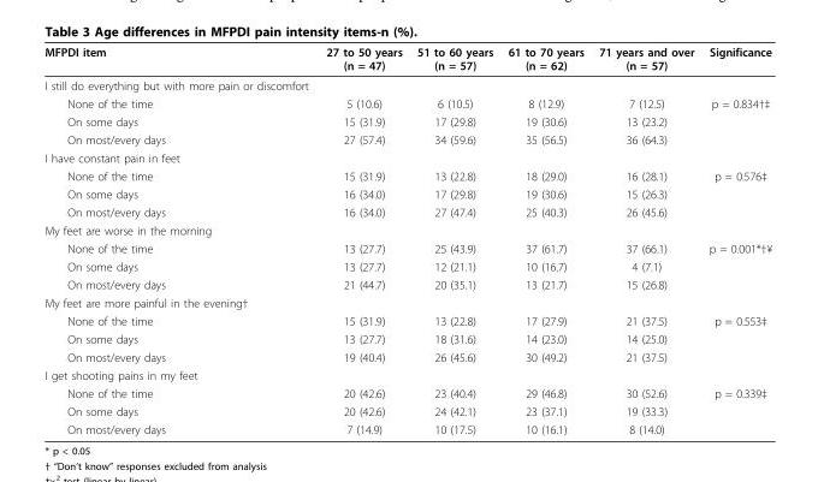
<table><thead><tr><td>MFPDI item</td><td>27 to 50 years (n = 47)</td><td>51 to 60 years (n = 57)</td><td>61 to 70 years (n = 62)</td><td>71 years and over (n = 57)</td><td>Significance</td></tr></thead><tbody><tr><td colspan="6">I still do everything but with more pain or discomfort</td></tr><tr><td>None of the time</td><td>5 (10.6)</td><td>6 (10.5)</td><td>8 (12.9)</td><td>7 (12.5)</td><td>p = 0.834†‡</td></tr><tr><td>On some days</td><td>15 (31.9)</td><td>17 (29.8)</td><td>19 (30.6)</td><td>13 (23.2)</td><td></td></tr><tr><td>On most/every days</td><td>27 (57.4)</td><td>34 (59.6)</td><td>35 (56.5)</td><td>36 (64.3)</td><td></td></tr><tr><td colspan="6">I have constant pain in feet</td></tr><tr><td>None of the time</td><td>15 (31.9)</td><td>13 (22.8)</td><td>18 (29.0)</td><td>16 (28.1)</td><td>p = 0.576‡</td></tr><tr><td>On some days</td><td>16 (34.0)</td><td>17 (29.8)</td><td>19 (30.6)</td><td>15 (26.3)</td><td></td></tr><tr><td>On most/every days</td><td>16 (34.0)</td><td>27 (47.4)</td><td>25 (40.3)</td><td>26 (45.6)</td><td></td></tr><tr><td colspan="6">My feet are worse in the morning</td></tr><tr><td>None of the time</td><td>13 (27.7)</td><td>25 (43.9)</td><td>37 (61.7)</td><td>37 (66.1)</td><td>p = 0.001*†¥</td></tr><tr><td>On some days</td><td>13 (27.7)</td><td>12 (21.1)</td><td>10 (16.7)</td><td>4 (7.1)</td><td></td></tr><tr><td>On most/every days</td><td>21 (44.7)</td><td>20 (35.1)</td><td>13 (21.7)</td><td>15 (26.8)</td><td></td></tr><tr><td colspan="6">My feet are more painful in the evening†</td></tr><tr><td>None of the time</td><td>15 (31.9)</td><td>13 (22.8)</td><td>17 (27.9)</td><td>21 (37.5)</td><td>p = 0.553‡</td></tr><tr><td>On some days</td><td>13 (27.7)</td><td>18 (31.6)</td><td>14 (23.0)</td><td>14 (25.0)</td><td></td></tr><tr><td>On most/every days</td><td>19 (40.4)</td><td>26 (45.6)</td><td>30 (49.2)</td><td>21 (37.5)</td><td></td></tr><tr><td colspan="6">I get shooting pains in my feet</td></tr><tr><td>None of the time</td><td>20 (42.6)</td><td>23 (40.4)</td><td>29 (46.8)</td><td>30 (52.6)</td><td>p = 0.339‡</td></tr><tr><td>On some days</td><td>20 (42.6)</td><td>24 (42.1)</td><td>23 (37.1)</td><td>19 (33.3)</td><td></td></tr><tr><td>On most/every days</td><td>7 (14.9)</td><td>10 (17.5)</td><td>10 (16.1)</td><td>8 (14.0)</td><td></td></tr></tbody></table>